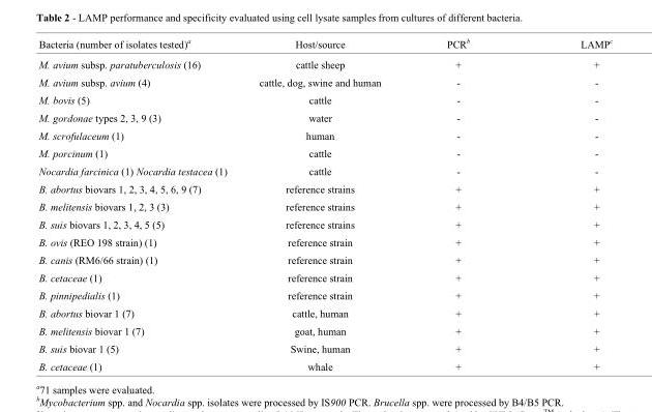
<table><thead><tr><td>Bacteria (number of isolates tested)<sup>a</sup></td><td>Host/source</td><td>PCR<sup>b</sup></td><td>LAMP<sup>c</sup></td></tr></thead><tbody><tr><td>M. avium subsp. paratuberculosis (16)</td><td>cattle sheep</td><td>+</td><td>+</td></tr><tr><td>M. avium subsp. avium (4)</td><td>cattle, dog, swine and human</td><td>-</td><td>-</td></tr><tr><td>M. bovis (5)</td><td>cattle</td><td>-</td><td>-</td></tr><tr><td>M. gordonae types 2, 3, 9 (3)</td><td>water</td><td>-</td><td>-</td></tr><tr><td>M. scrofulaceum (1)</td><td>human</td><td>-</td><td>-</td></tr><tr><td>M. porcinum (1)</td><td>cattle</td><td>-</td><td>-</td></tr><tr><td>Nocardia farcinica (1) Nocardia testacea (1)</td><td>cattle</td><td>-</td><td>-</td></tr><tr><td>B. abortus biovars 1, 2, 3, 4, 5, 6, 9 (7)</td><td>reference strains</td><td>+</td><td>+</td></tr><tr><td>B. melitensis biovars 1, 2, 3 (3)</td><td>reference strains</td><td>+</td><td>+</td></tr><tr><td>B. suis biovars 1, 2, 3, 4, 5 (5)</td><td>reference strains</td><td>+</td><td>+</td></tr><tr><td>B. ovis (REO 198 strain) (1)</td><td>reference strain</td><td>+</td><td>+</td></tr><tr><td>B. canis (RM6/66 strain) (1)</td><td>reference strain</td><td>+</td><td>+</td></tr><tr><td>B. cetaceae (1)</td><td>reference strain</td><td>+</td><td>+</td></tr><tr><td>B. pinnipedialis (1)</td><td>reference strain</td><td>+</td><td>+</td></tr><tr><td>B. abortus biovar 1 (7)</td><td>cattle, human</td><td>+</td><td>+</td></tr><tr><td>B. melitensis biovar 1 (7)</td><td>goat, human</td><td>+</td><td>+</td></tr><tr><td>B. suis biovar 1 (5)</td><td>Swine, human</td><td>+</td><td>+</td></tr><tr><td>B. cetaceae (1)</td><td>whale</td><td>+</td><td>+</td></tr></tbody></table>